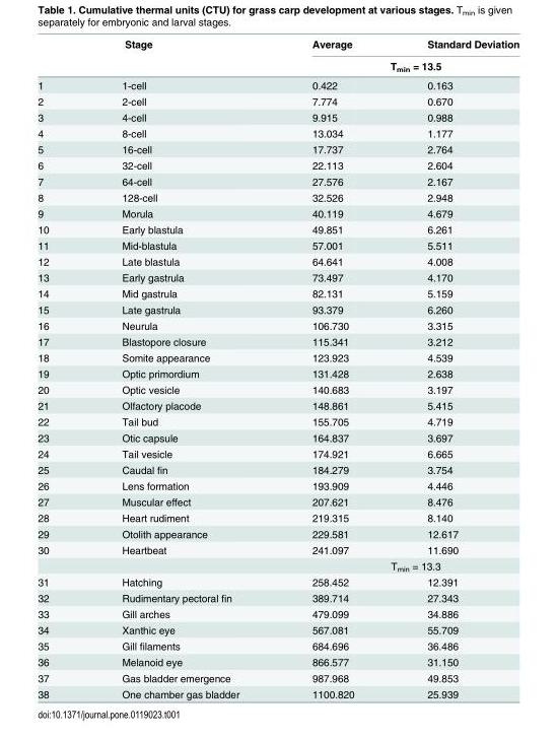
<table><thead><tr><td colspan="2">Stage</td><td>Average</td><td>Standard Deviation</td></tr><tr><td></td><td></td><td colspan="2">T<sub>min</sub> = 13.5</td></tr></thead><tbody><tr><td>1</td><td>1-cell</td><td>0.422</td><td>0.163</td></tr><tr><td>2</td><td>2-cell</td><td>7.774</td><td>0.670</td></tr><tr><td>3</td><td>4-cell</td><td>9.915</td><td>0.988</td></tr><tr><td>4</td><td>8-cell</td><td>13.034</td><td>1.177</td></tr><tr><td>5</td><td>16-cell</td><td>17.737</td><td>2.764</td></tr><tr><td>6</td><td>32-cell</td><td>22.113</td><td>2.604</td></tr><tr><td>7</td><td>64-cell</td><td>27.576</td><td>2.167</td></tr><tr><td>8</td><td>128-cell</td><td>32.526</td><td>2.948</td></tr><tr><td>9</td><td>Morula</td><td>40.119</td><td>4.679</td></tr><tr><td>10</td><td>Early blastula</td><td>49.851</td><td>6.261</td></tr><tr><td>11</td><td>Mid-blastula</td><td>57.001</td><td>5.511</td></tr><tr><td>12</td><td>Late blastula</td><td>64.641</td><td>4.008</td></tr><tr><td>13</td><td>Early gastrula</td><td>73.497</td><td>4.170</td></tr><tr><td>14</td><td>Mid gastrula</td><td>82.131</td><td>5.159</td></tr><tr><td>15</td><td>Late gastrula</td><td>93.379</td><td>6.260</td></tr><tr><td>16</td><td>Neurula</td><td>106.730</td><td>3.315</td></tr><tr><td>17</td><td>Blastopore closure</td><td>115.341</td><td>3.212</td></tr><tr><td>18</td><td>Somite appearance</td><td>123.923</td><td>4.539</td></tr><tr><td>19</td><td>Optic primordium</td><td>131.428</td><td>2.638</td></tr><tr><td>20</td><td>Optic vesicle</td><td>140.683</td><td>3.197</td></tr><tr><td>21</td><td>Olfactory placode</td><td>148.861</td><td>5.415</td></tr><tr><td>22</td><td>Tail bud</td><td>155.705</td><td>4.719</td></tr><tr><td>23</td><td>Otic capsule</td><td>164.837</td><td>3.697</td></tr><tr><td>24</td><td>Tail vesicle</td><td>174.921</td><td>6.665</td></tr><tr><td>25</td><td>Caudal fin</td><td>184.279</td><td>3.754</td></tr><tr><td>26</td><td>Lens formation</td><td>193.909</td><td>4.446</td></tr><tr><td>27</td><td>Muscular effect</td><td>207.621</td><td>8.476</td></tr><tr><td>28</td><td>Heart rudiment</td><td>219.315</td><td>8.140</td></tr><tr><td>29</td><td>Otolith appearance</td><td>229.581</td><td>12.617</td></tr><tr><td rowspan="2">30</td><td>Heartbeat</td><td>241.097</td><td>11.690</td></tr><tr><td></td><td colspan="2">T<sub>min</sub> = 13.3</td></tr><tr><td>31</td><td>Hatching</td><td>258.452</td><td>12.391</td></tr><tr><td>32</td><td>Rudimentary pectoral fin</td><td>389.714</td><td>27.343</td></tr><tr><td>33</td><td>Gill arches</td><td>479.099</td><td>34.886</td></tr><tr><td>34</td><td>Xanthic eye</td><td>567.081</td><td>55.709</td></tr><tr><td>35</td><td>Gill filaments</td><td>684.696</td><td>36.486</td></tr><tr><td>36</td><td>Melanoid eye</td><td>866.577</td><td>31.150</td></tr><tr><td>37</td><td>Gas bladder emergence</td><td>987.968</td><td>49.853</td></tr><tr><td>38</td><td>One chamber gas bladder</td><td>1100.820</td><td>25.939</td></tr></tbody></table>